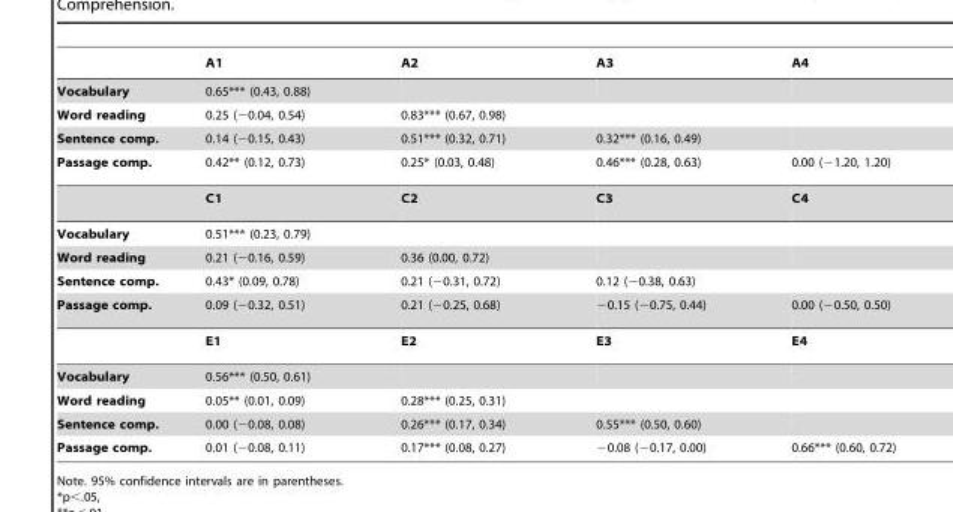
<table><thead><tr><td></td><td>A1</td><td>A2</td><td>A3</td><td>A4</td></tr></thead><tbody><tr><td>Vocabulary</td><td>0.65*** (0.43, 0.88)</td><td></td><td></td><td></td></tr><tr><td>Word reading</td><td>0.25 (−0.04, 0.54)</td><td>0.83*** (0.67, 0.98)</td><td></td><td></td></tr><tr><td>Sentence comp.</td><td>0.14 (−0.15, 0.43)</td><td>0.51*** (0.32, 0.71)</td><td>0.32*** (0.16, 0.49)</td><td></td></tr><tr><td rowspan="2">Passage comp.</td><td>0.42** (0.12, 0.73)</td><td>0.25* (0.03, 0.48)</td><td>0.46*** (0.28, 0.63)</td><td>0.00 (−1.20, 1.20)</td></tr><tr><td>C1</td><td>C2</td><td>C3</td><td>C4</td></tr><tr><td>Vocabulary</td><td>0.51*** (0.23, 0.79)</td><td></td><td></td><td></td></tr><tr><td>Word reading</td><td>0.21 (−0.16, 0.59)</td><td>0.36 (0.00, 0.72)</td><td></td><td></td></tr><tr><td>Sentence comp.</td><td>0.43* (0.09, 0.78)</td><td>0.21 (−0.31, 0.72)</td><td>0.12 (−0.38, 0.63)</td><td></td></tr><tr><td rowspan="2">Passage comp.</td><td>0.09 (−0.32, 0.51)</td><td>0.21 (−0.25, 0.68)</td><td>−0.15 (−0.75, 0.44)</td><td>0.00 (−0.50, 0.50)</td></tr><tr><td>E1</td><td>E2</td><td>E3</td><td>E4</td></tr><tr><td>Vocabulary</td><td>0.56*** (0.50, 0.61)</td><td></td><td></td><td></td></tr><tr><td>Word reading</td><td>0.05** (0.01, 0.09)</td><td>0.28*** (0.25, 0.31)</td><td></td><td></td></tr><tr><td>Sentence comp.</td><td>0.00 (−0.08, 0.08)</td><td>0.26*** (0.17, 0.34)</td><td>0.55*** (0.50, 0.60)</td><td></td></tr><tr><td>Passage comp.</td><td>0.01 (−0.08, 0.11)</td><td>0.17*** (0.08, 0.27)</td><td>−0.08 (−0.17, 0.00)</td><td>0.66*** (0.60, 0.72)</td></tr></tbody></table>